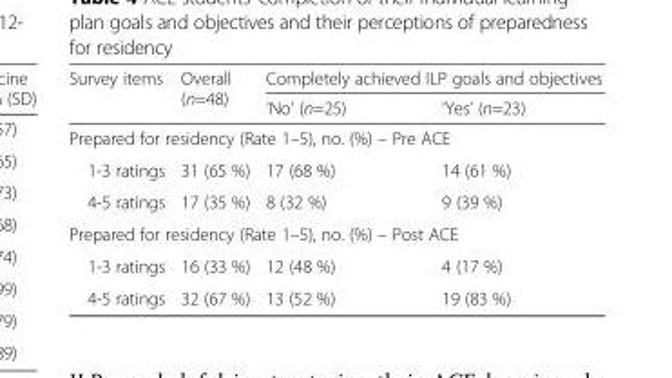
<table><thead><tr><td rowspan="2">Survey items</td><td rowspan="2">Overall (n=48)</td><td colspan="2">Completely achieved ILP goals and objectives</td></tr><tr><td>‘No’ (n=25)</td><td>‘Yes’ (n=23)</td></tr></thead><tbody><tr><td colspan="4">Prepared for residency (Rate 1–5), no. (%) – Pre ACE</td></tr><tr><td>1-3 ratings</td><td>31 (65 %)</td><td>17 (68 %)</td><td>14 (61 %)</td></tr><tr><td>4-5 ratings</td><td>17 (35 %)</td><td>8 (32 %)</td><td>9 (39 %)</td></tr><tr><td colspan="4">Prepared for residency (Rate 1–5), no. (%) – Post ACE</td></tr><tr><td>1-3 ratings</td><td>16 (33 %)</td><td>12 (48 %)</td><td>4 (17 %)</td></tr><tr><td>4-5 ratings</td><td>32 (67 %)</td><td>13 (52 %)</td><td>19 (83 %)</td></tr></tbody></table>